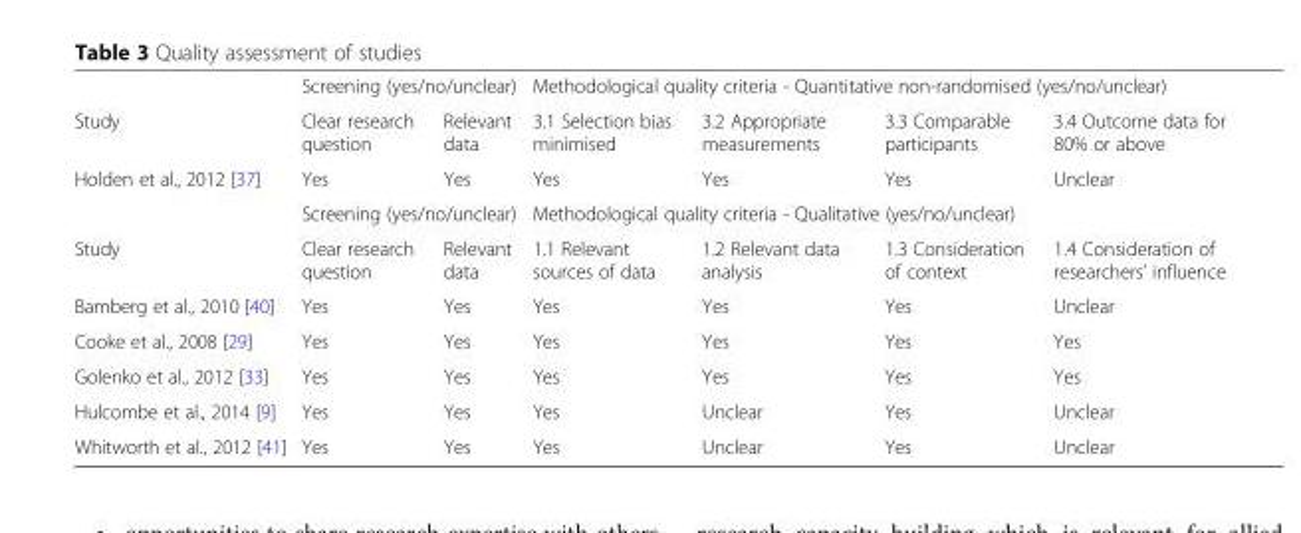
<table><thead><tr><td rowspan="2">Study</td><td colspan="2">Screening (yes/no/unclear)</td><td colspan="4">Methodological quality criteria - Quantitative non-randomised (yes/no/unclear)</td></tr><tr><td>Clear research question</td><td>Relevant data</td><td>3.1 Selection bias minimised</td><td>3.2 Appropriate measurements</td><td>3.3 Comparable participants</td><td>3.4 Outcome data for 80% or above</td></tr></thead><tbody><tr><td rowspan="2">Holden et al., 2012 [37]</td><td>Yes</td><td>Yes</td><td>Yes</td><td>Yes</td><td>Yes</td><td>Unclear</td></tr><tr><td colspan="2">Screening (yes/no/unclear)</td><td colspan="4">Methodological quality criteria - Qualitative (yes/no/unclear)</td></tr><tr><td>Study</td><td>Clear research question</td><td>Relevant data</td><td>1.1 Relevant sources of data</td><td>1.2 Relevant data analysis</td><td>1.3 Consideration of context</td><td>1.4 Consideration of researchers’ influence</td></tr><tr><td>Bamberg et al., 2010 [40]</td><td>Yes</td><td>Yes</td><td>Yes</td><td>Yes</td><td>Yes</td><td>Unclear</td></tr><tr><td>Cooke et al., 2008 [29]</td><td>Yes</td><td>Yes</td><td>Yes</td><td>Yes</td><td>Yes</td><td>Yes</td></tr><tr><td>Golenko et al., 2012 [33]</td><td>Yes</td><td>Yes</td><td>Yes</td><td>Yes</td><td>Yes</td><td>Yes</td></tr><tr><td>Hulcombe et al., 2014 [9]</td><td>Yes</td><td>Yes</td><td>Yes</td><td>Unclear</td><td>Yes</td><td>Unclear</td></tr><tr><td>Whitworth et al., 2012 [41]</td><td>Yes</td><td>Yes</td><td>Yes</td><td>Unclear</td><td>Yes</td><td>Unclear</td></tr></tbody></table>